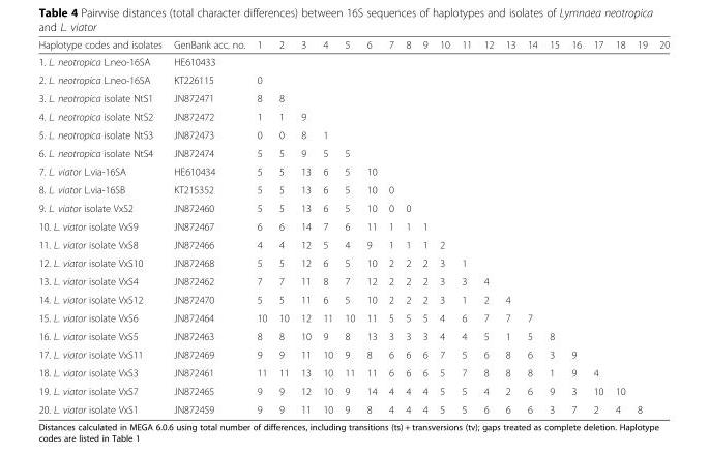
<table><thead><tr><td>Haplotype codes and isolates</td><td>GenBank acc. no.</td><td>1</td><td>2</td><td>3</td><td>4</td><td>5</td><td>6</td><td>7</td><td>8</td><td>9</td><td>10</td><td>11</td><td>12</td><td>13</td><td>14</td><td>15</td><td>16</td><td>17</td><td>18</td><td>19</td><td>20</td></tr></thead><tbody><tr><td>1. L. neotropica L.neo-16SA</td><td>HE610433</td><td></td><td></td><td></td><td></td><td></td><td></td><td></td><td></td><td></td><td></td><td></td><td></td><td></td><td></td><td></td><td></td><td></td><td></td><td></td><td></td></tr><tr><td>2. L. neotropica L.neo-16SA</td><td>KT226115</td><td>0</td><td></td><td></td><td></td><td></td><td></td><td></td><td></td><td></td><td></td><td></td><td></td><td></td><td></td><td></td><td></td><td></td><td></td><td></td><td></td></tr><tr><td>3. L. neotropica isolate NtS1</td><td>JN872471</td><td>8</td><td>8</td><td></td><td></td><td></td><td></td><td></td><td></td><td></td><td></td><td></td><td></td><td></td><td></td><td></td><td></td><td></td><td></td><td></td><td></td></tr><tr><td>4. L. neotropica isolate NtS2</td><td>JN872472</td><td>1</td><td>1</td><td>9</td><td></td><td></td><td></td><td></td><td></td><td></td><td></td><td></td><td></td><td></td><td></td><td></td><td></td><td></td><td></td><td></td><td></td></tr><tr><td>5. L. neotropica isolate NtS3</td><td>JN872473</td><td>0</td><td>0</td><td>8</td><td>1</td><td></td><td></td><td></td><td></td><td></td><td></td><td></td><td></td><td></td><td></td><td></td><td></td><td></td><td></td><td></td><td></td></tr><tr><td>6. L. neotropica isolate NtS4</td><td>JN872474</td><td>5</td><td>5</td><td>9</td><td>5</td><td>5</td><td></td><td></td><td></td><td></td><td></td><td></td><td></td><td></td><td></td><td></td><td></td><td></td><td></td><td></td><td></td></tr><tr><td>7. L. viator L.via-16SA</td><td>HE610434</td><td>5</td><td>5</td><td>13</td><td>6</td><td>5</td><td>10</td><td></td><td></td><td></td><td></td><td></td><td></td><td></td><td></td><td></td><td></td><td></td><td></td><td></td><td></td></tr><tr><td>8. L. viator L.via-16SB</td><td>KT215352</td><td>5</td><td>5</td><td>13</td><td>6</td><td>5</td><td>10</td><td>0</td><td></td><td></td><td></td><td></td><td></td><td></td><td></td><td></td><td></td><td></td><td></td><td></td><td></td></tr><tr><td>9. L. viator isolate VxS2</td><td>JN872460</td><td>5</td><td>5</td><td>13</td><td>6</td><td>5</td><td>10</td><td>0</td><td>0</td><td></td><td></td><td></td><td></td><td></td><td></td><td></td><td></td><td></td><td></td><td></td><td></td></tr><tr><td>10. L. viator isolate VxS9</td><td>JN872467</td><td>6</td><td>6</td><td>14</td><td>7</td><td>6</td><td>11</td><td>1</td><td>1</td><td>1</td><td></td><td></td><td></td><td></td><td></td><td></td><td></td><td></td><td></td><td></td><td></td></tr><tr><td>11. L. viator isolate VxS8</td><td>JN872466</td><td>4</td><td>4</td><td>12</td><td>5</td><td>4</td><td>9</td><td>1</td><td>1</td><td>1</td><td>2</td><td></td><td></td><td></td><td></td><td></td><td></td><td></td><td></td><td></td><td></td></tr><tr><td>12. L. viator isolate VxS10</td><td>JN872468</td><td>5</td><td>5</td><td>12</td><td>6</td><td>5</td><td>10</td><td>2</td><td>2</td><td>2</td><td>3</td><td>1</td><td></td><td></td><td></td><td></td><td></td><td></td><td></td><td></td><td></td></tr><tr><td>13. L. viator isolate VxS4</td><td>JN872462</td><td>7</td><td>7</td><td>11</td><td>8</td><td>7</td><td>12</td><td>2</td><td>2</td><td>2</td><td>3</td><td>3</td><td>4</td><td></td><td></td><td></td><td></td><td></td><td></td><td></td><td></td></tr><tr><td>14. L. viator isolate VxS12</td><td>JN872470</td><td>5</td><td>5</td><td>11</td><td>6</td><td>5</td><td>10</td><td>2</td><td>2</td><td>2</td><td>3</td><td>1</td><td>2</td><td>4</td><td></td><td></td><td></td><td></td><td></td><td></td><td></td></tr><tr><td>15. L. viator isolate VxS6</td><td>JN872464</td><td>10</td><td>10</td><td>12</td><td>11</td><td>10</td><td>11</td><td>5</td><td>5</td><td>5</td><td>4</td><td>6</td><td>7</td><td>7</td><td>7</td><td></td><td></td><td></td><td></td><td></td><td></td></tr><tr><td>16. L. viator isolate VxS5</td><td>JN872463</td><td>8</td><td>8</td><td>10</td><td>9</td><td>8</td><td>13</td><td>3</td><td>3</td><td>3</td><td>4</td><td>4</td><td>5</td><td>1</td><td>5</td><td>8</td><td></td><td></td><td></td><td></td><td></td></tr><tr><td>17. L. viator isolate VxS11</td><td>JN872469</td><td>9</td><td>9</td><td>11</td><td>10</td><td>9</td><td>8</td><td>6</td><td>6</td><td>6</td><td>7</td><td>5</td><td>6</td><td>8</td><td>6</td><td>3</td><td>9</td><td></td><td></td><td></td><td></td></tr><tr><td>18. L. viator isolate VxS3</td><td>JN872461</td><td>11</td><td>11</td><td>13</td><td>10</td><td>11</td><td>11</td><td>6</td><td>6</td><td>6</td><td>5</td><td>7</td><td>8</td><td>8</td><td>8</td><td>1</td><td>9</td><td>4</td><td></td><td></td><td></td></tr><tr><td>19. L. viator isolate VxS7</td><td>JN872465</td><td>9</td><td>9</td><td>12</td><td>10</td><td>9</td><td>14</td><td>4</td><td>4</td><td>4</td><td>5</td><td>5</td><td>4</td><td>2</td><td>6</td><td>9</td><td>3</td><td>10</td><td>10</td><td></td><td></td></tr><tr><td>20. L. viator isolate VxS1</td><td>JN872459</td><td>9</td><td>9</td><td>11</td><td>10</td><td>9</td><td>8</td><td>4</td><td>4</td><td>4</td><td>5</td><td>5</td><td>6</td><td>6</td><td>6</td><td>3</td><td>7</td><td>2</td><td>4</td><td>8</td><td></td></tr></tbody></table>